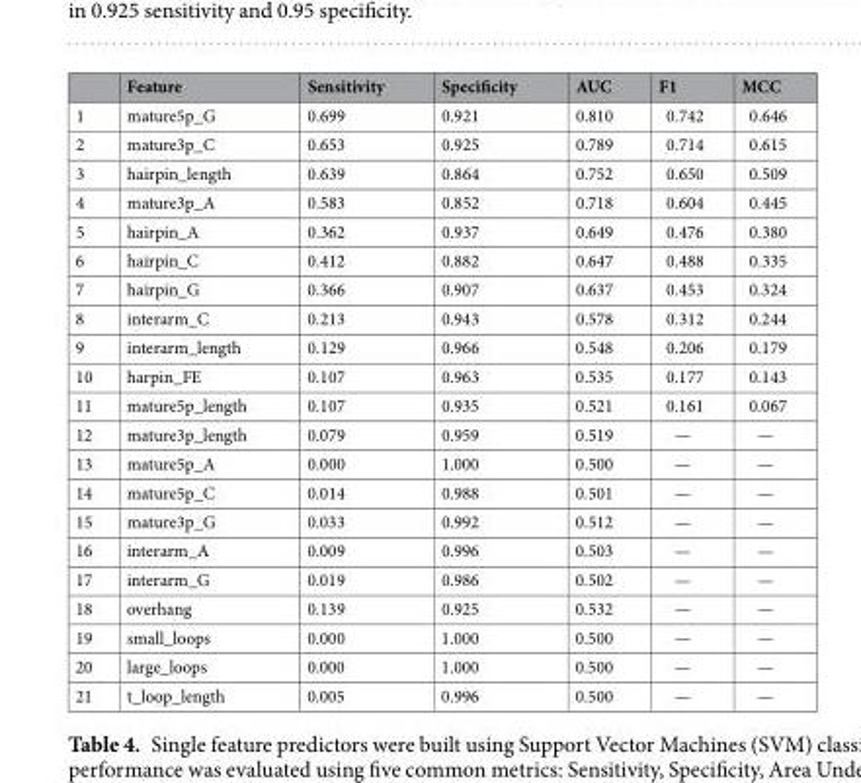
<table><thead><tr><td></td><td>Feature</td><td>Sensitivity</td><td>Specificity</td><td>AUC</td><td>F1</td><td>MCC</td></tr></thead><tbody><tr><td>1</td><td>mature5p_G</td><td>0.699</td><td>0.921</td><td>0.810</td><td>0.742</td><td>0.646</td></tr><tr><td>2</td><td>mature3p_C</td><td>0.653</td><td>0.925</td><td>0.789</td><td>0.714</td><td>0.615</td></tr><tr><td>3</td><td>hairpin_length</td><td>0.639</td><td>0.864</td><td>0.752</td><td>0.650</td><td>0.509</td></tr><tr><td>4</td><td>mature3p_A</td><td>0.583</td><td>0.852</td><td>0.718</td><td>0.604</td><td>0.445</td></tr><tr><td>5</td><td>hairpin_A</td><td>0.362</td><td>0.937</td><td>0.649</td><td>0.476</td><td>0.380</td></tr><tr><td>6</td><td>hairpin_C</td><td>0.412</td><td>0.882</td><td>0.647</td><td>0.488</td><td>0.335</td></tr><tr><td>7</td><td>hairpin_G</td><td>0.366</td><td>0.907</td><td>0.637</td><td>0.453</td><td>0.324</td></tr><tr><td>8</td><td>interarm_C</td><td>0.213</td><td>0.943</td><td>0.578</td><td>0.312</td><td>0.244</td></tr><tr><td>9</td><td>interarm_length</td><td>0.129</td><td>0.966</td><td>0.548</td><td>0.206</td><td>0.179</td></tr><tr><td>10</td><td>harpin_FE</td><td>0.107</td><td>0.963</td><td>0.535</td><td>0.177</td><td>0.143</td></tr><tr><td>11</td><td>mature5p_length</td><td>0.107</td><td>0.935</td><td>0.521</td><td>0.161</td><td>0.067</td></tr><tr><td>12</td><td>mature3p_length</td><td>0.079</td><td>0.959</td><td>0.519</td><td>—</td><td>—</td></tr><tr><td>13</td><td>mature5p_A</td><td>0.000</td><td>1.000</td><td>0.500</td><td>—</td><td>—</td></tr><tr><td>14</td><td>mature5p_C</td><td>0.014</td><td>0.988</td><td>0.501</td><td>—</td><td>—</td></tr><tr><td>15</td><td>mature3p_G</td><td>0.033</td><td>0.992</td><td>0.512</td><td>—</td><td>—</td></tr><tr><td>16</td><td>interarm_A</td><td>0.009</td><td>0.996</td><td>0.503</td><td>—</td><td>—</td></tr><tr><td>17</td><td>interarm_G</td><td>0.019</td><td>0.986</td><td>0.502</td><td>—</td><td>—</td></tr><tr><td>18</td><td>overhang</td><td>0.139</td><td>0.925</td><td>0.532</td><td>—</td><td>—</td></tr><tr><td>19</td><td>small_loops</td><td>0.000</td><td>1.000</td><td>0.500</td><td>—</td><td>—</td></tr><tr><td>20</td><td>large_loops</td><td>0.000</td><td>1.000</td><td>0.500</td><td>—</td><td>—</td></tr><tr><td>21</td><td>t_loop_length</td><td>0.005</td><td>0.996</td><td>0.500</td><td>—</td><td>—</td></tr></tbody></table>